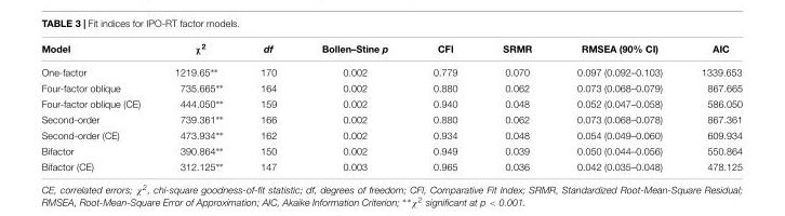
<table><thead><tr><td>Model</td><td>χ<sup>2</sup></td><td>df</td><td>Bollen–Stine p</td><td>CFI</td><td>SRMR</td><td>RMSEA (90% CI)</td><td>AIC</td></tr></thead><tbody><tr><td>One-factor</td><td>1219.65∗∗</td><td>170</td><td>0.002</td><td>0.779</td><td>0.070</td><td>0.097 (0.092–0.103)</td><td>1339.653</td></tr><tr><td>Four-factor oblique</td><td>735.665∗∗</td><td>164</td><td>0.002</td><td>0.880</td><td>0.062</td><td>0.073 (0.068–0.079)</td><td>867.665</td></tr><tr><td>Four-factor oblique (CE)</td><td>444.050∗∗</td><td>159</td><td>0.002</td><td>0.940</td><td>0.048</td><td>0.052 (0.047–0.058)</td><td>586.050</td></tr><tr><td>Second-order</td><td>739.361∗∗</td><td>166</td><td>0.002</td><td>0.880</td><td>0.062</td><td>0.073 (0.068–0.078)</td><td>867.361</td></tr><tr><td>Second-order (CE)</td><td>473.934∗∗</td><td>162</td><td>0.002</td><td>0.934</td><td>0.048</td><td>0.054 (0.049–0.060)</td><td>609.934</td></tr><tr><td>Bifactor</td><td>390.864∗∗</td><td>150</td><td>0.002</td><td>0.949</td><td>0.039</td><td>0.050 (0.044–0.056)</td><td>550.864</td></tr><tr><td>Bifactor (CE)</td><td>312.125∗∗</td><td>147</td><td>0.003</td><td>0.965</td><td>0.036</td><td>0.042 (0.035–0.048)</td><td>478.125</td></tr></tbody></table>